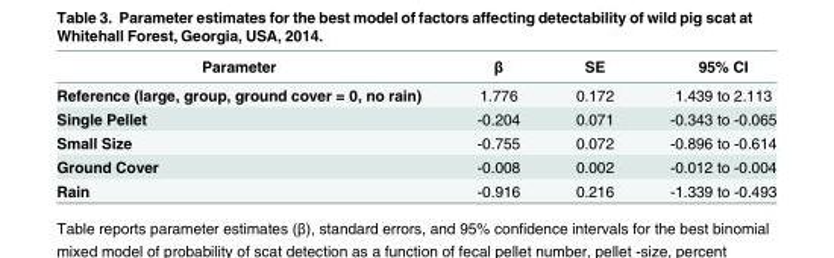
<table><thead><tr><td>Parameter</td><td>β</td><td>SE</td><td>95% CI</td></tr></thead><tbody><tr><td>Reference (large, group, ground cover = 0, no rain)</td><td>1.776</td><td>0.172</td><td>1.439 to 2.113</td></tr><tr><td>Single Pellet</td><td>-0.204</td><td>0.071</td><td>-0.343 to -0.065</td></tr><tr><td>Small Size</td><td>-0.755</td><td>0.072</td><td>-0.896 to -0.614</td></tr><tr><td>Ground Cover</td><td>-0.008</td><td>0.002</td><td>-0.012 to -0.004</td></tr><tr><td>Rain</td><td>-0.916</td><td>0.216</td><td>-1.339 to -0.493</td></tr></tbody></table>